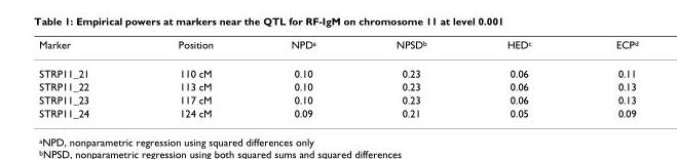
<table><thead><tr><td>Marker</td><td>Position</td><td>NPD<sup>a</sup></td><td>NPSD<sup>b</sup></td><td>HED<sup>c</sup></td><td>ECP<sup>d</sup></td></tr></thead><tbody><tr><td>STRP11_21</td><td>110 cM</td><td>0.10</td><td>0.23</td><td>0.06</td><td>0.11</td></tr><tr><td>STRP11_22</td><td>113 cM</td><td>0.10</td><td>0.23</td><td>0.06</td><td>0.13</td></tr><tr><td>STRP11_23</td><td>117 cM</td><td>0.10</td><td>0.23</td><td>0.06</td><td>0.13</td></tr><tr><td>STRP11_24</td><td>124 cM</td><td>0.09</td><td>0.21</td><td>0.05</td><td>0.09</td></tr></tbody></table>